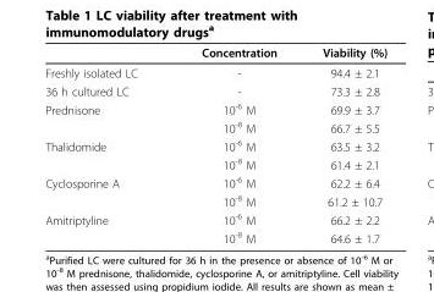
<table><thead><tr><td></td><td>Concentration</td><td>Viability (%)</td></tr></thead><tbody><tr><td>Freshly isolated LC</td><td>-</td><td>94.4 ± 2.1</td></tr><tr><td>36 h cultured LC</td><td>-</td><td>73.3 ± 2.8</td></tr><tr><td rowspan="2">Prednisone</td><td>10<sup>-6</sup> M</td><td>69.9 ± 3.7</td></tr><tr><td>10<sup>-8</sup> M</td><td>66.7 ± 5.5</td></tr><tr><td rowspan="2">Thalidomide</td><td>10<sup>-6</sup> M</td><td>63.5 ± 3.2</td></tr><tr><td>10<sup>-8</sup> M</td><td>61.4 ± 2.1</td></tr><tr><td rowspan="2">Cyclosporine A</td><td>10<sup>-6</sup> M</td><td>62.2 ± 6.4</td></tr><tr><td>10<sup>-8</sup> M</td><td>61.2 ± 10.7</td></tr><tr><td rowspan="2">Amitriptyline</td><td>10<sup>-6</sup> M</td><td>66.2 ± 2.2</td></tr><tr><td>10<sup>-8</sup> M</td><td>64.6 ± 1.7</td></tr></tbody></table>